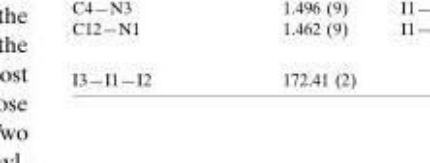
<table><tbody><tr><td>I3—I1—I2</td><td>172.41 (2)</td></tr></tbody></table>